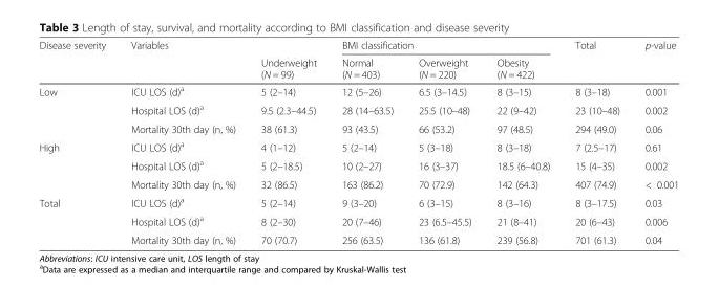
<table><thead><tr><td rowspan="2">Disease severity</td><td rowspan="2">Variables</td><td rowspan="2">Underweight (N = 99)</td><td colspan="3">BMI classification</td><td rowspan="2">Total</td><td rowspan="2">p-value</td></tr><tr><td>Normal (N = 403)</td><td>Overweight (N = 220)</td><td>Obesity (N = 422)</td></tr></thead><tbody><tr><td rowspan="3">Low</td><td>ICU LOS (d)<sup>a</sup></td><td>5 (2–14)</td><td>12 (5–26)</td><td>6.5 (3–14.5)</td><td>8 (3–15)</td><td>8 (3–18)</td><td>0.001</td></tr><tr><td>Hospital LOS (d)<sup>a</sup></td><td>9.5 (2.3–44.5)</td><td>28 (14–63.5)</td><td>25.5 (10–48)</td><td>22 (9–42)</td><td>23 (10–48)</td><td>0.002</td></tr><tr><td>Mortality 30th day (n, %)</td><td>38 (61.3)</td><td>93 (43.5)</td><td>66 (53.2)</td><td>97 (48.5)</td><td>294 (49.0)</td><td>0.06</td></tr><tr><td rowspan="3">High</td><td>ICU LOS (d)<sup>a</sup></td><td>4 (1–12)</td><td>5 (2–14)</td><td>5 (3–18)</td><td>8 (3–18)</td><td>7 (2.5–17)</td><td>0.61</td></tr><tr><td>Hospital LOS (d)<sup>a</sup></td><td>5 (2–18.5)</td><td>10 (2–27)</td><td>16 (3–37)</td><td>18.5 (6–40.8)</td><td>15 (4–35)</td><td>0.002</td></tr><tr><td>Mortality 30th day (n, %)</td><td>32 (86.5)</td><td>163 (86.2)</td><td>70 (72.9)</td><td>142 (64.3)</td><td>407 (74.9)</td><td>&lt; 0.001</td></tr><tr><td rowspan="3">Total</td><td>ICU LOS (d)<sup>a</sup></td><td>5 (2–14)</td><td>9 (3–20)</td><td>6 (3–15)</td><td>8 (3–16)</td><td>8 (3–17.5)</td><td>0.03</td></tr><tr><td>Hospital LOS (d)<sup>a</sup></td><td>8 (2–30)</td><td>20 (7–46)</td><td>23 (6.5–45.5)</td><td>21 (8–41)</td><td>20 (6–43)</td><td>0.006</td></tr><tr><td>Mortality 30th day (n, %)</td><td>70 (70.7)</td><td>256 (63.5)</td><td>136 (61.8)</td><td>239 (56.8)</td><td>701 (61.3)</td><td>0.04</td></tr></tbody></table>